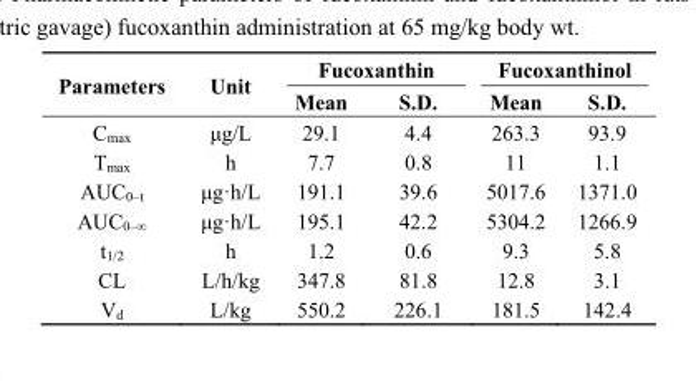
<table><thead><tr><td rowspan="2">Parameters</td><td rowspan="2">Unit</td><td colspan="2">Fucoxanthin</td><td colspan="2">Fucoxanthinol</td></tr><tr><td>Mean</td><td>S.D.</td><td>Mean</td><td>S.D.</td></tr></thead><tbody><tr><td>C<sub>max</sub></td><td>μg/L</td><td>29.1</td><td>4.4</td><td>263.3</td><td>93.9</td></tr><tr><td>T<sub>max</sub></td><td>h</td><td>7.7</td><td>0.8</td><td>11</td><td>1.1</td></tr><tr><td>AUC<sub>0–t</sub></td><td>μg·h/L</td><td>191.1</td><td>39.6</td><td>5017.6</td><td>1371.0</td></tr><tr><td>AUC<sub>0–∞</sub></td><td>μg·h/L</td><td>195.1</td><td>42.2</td><td>5304.2</td><td>1266.9</td></tr><tr><td>t<sub>1/2</sub></td><td>h</td><td>1.2</td><td>0.6</td><td>9.3</td><td>5.8</td></tr><tr><td>CL</td><td>L/h/kg</td><td>347.8</td><td>81.8</td><td>12.8</td><td>3.1</td></tr><tr><td>V<sub>d</sub></td><td>L/kg</td><td>550.2</td><td>226.1</td><td>181.5</td><td>142.4</td></tr></tbody></table>